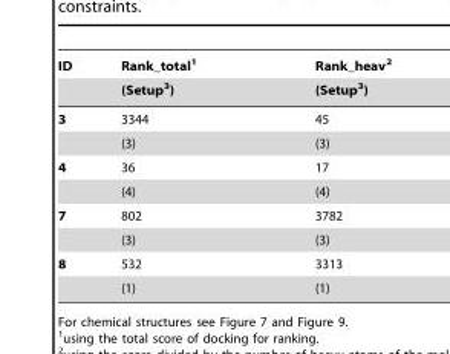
<table><thead><tr><td rowspan="2">ID</td><td rowspan="2">Rank_total<sup>1</sup> (Setup<sup>3</sup>)</td><td rowspan="2">Rank_heav<sup>2</sup> (Setup<sup>3</sup>)</td></tr><tr></tr></thead><tbody><tr><td rowspan="2">3</td><td>3344</td><td>45</td></tr><tr><td>(3)</td><td>(3)</td></tr><tr><td rowspan="2">4</td><td>36</td><td>17</td></tr><tr><td>(4)</td><td>(4)</td></tr><tr><td rowspan="2">7</td><td>802</td><td>3782</td></tr><tr><td>(3)</td><td>(3)</td></tr><tr><td rowspan="2">8</td><td>532</td><td>3313</td></tr><tr><td>(1)</td><td>(1)</td></tr></tbody></table>